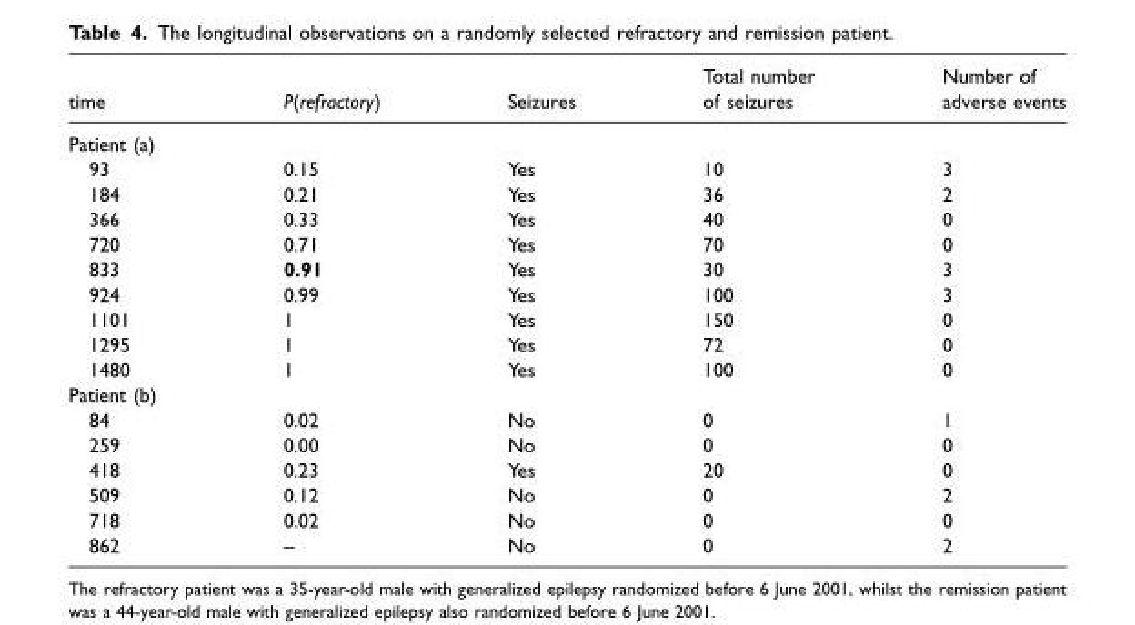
<table><thead><tr><td>time</td><td>P(refractory)</td><td>Seizures</td><td>Total number of seizures</td><td>Number of adverse events</td></tr></thead><tbody><tr><td colspan="5">Patient (a)</td></tr><tr><td>93</td><td>0.15</td><td>Yes</td><td>10</td><td>3</td></tr><tr><td>184</td><td>0.21</td><td>Yes</td><td>36</td><td>2</td></tr><tr><td>366</td><td>0.33</td><td>Yes</td><td>40</td><td>0</td></tr><tr><td>720</td><td>0.71</td><td>Yes</td><td>70</td><td>0</td></tr><tr><td>833</td><td>0.91</td><td>Yes</td><td>30</td><td>3</td></tr><tr><td>924</td><td>0.99</td><td>Yes</td><td>100</td><td>3</td></tr><tr><td>1101</td><td>1</td><td>Yes</td><td>150</td><td>0</td></tr><tr><td>1295</td><td>1</td><td>Yes</td><td>72</td><td>0</td></tr><tr><td>1480</td><td>1</td><td>Yes</td><td>100</td><td>0</td></tr><tr><td colspan="5">Patient (b)</td></tr><tr><td>84</td><td>0.02</td><td>No</td><td>0</td><td>1</td></tr><tr><td>259</td><td>0.00</td><td>No</td><td>0</td><td>0</td></tr><tr><td>418</td><td>0.23</td><td>Yes</td><td>20</td><td>0</td></tr><tr><td>509</td><td>0.12</td><td>No</td><td>0</td><td>2</td></tr><tr><td>718</td><td>0.02</td><td>No</td><td>0</td><td>0</td></tr><tr><td>862</td><td>–</td><td>No</td><td>0</td><td>2</td></tr></tbody></table>